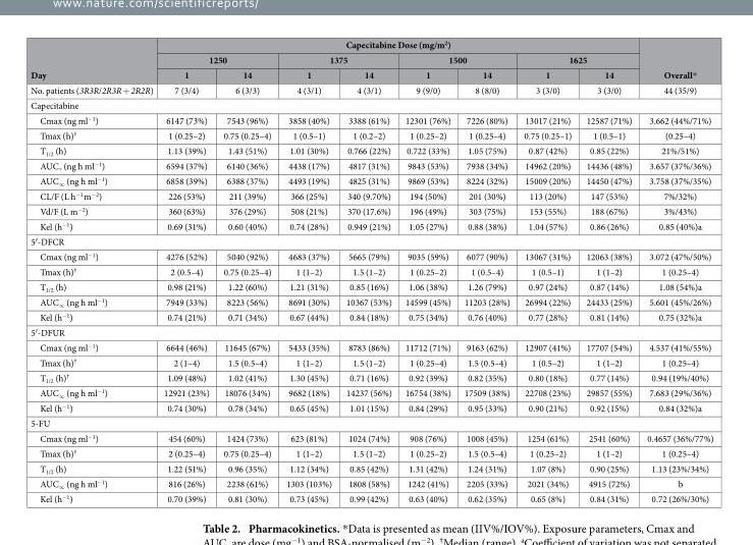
<table><thead><tr><td rowspan="3">Day</td><td colspan="8">Capecitabine Dose (mg/m<sup>2</sup>)</td><td rowspan="3">Overall*</td></tr><tr><td colspan="2">1250</td><td colspan="2">1375</td><td colspan="2">1500</td><td colspan="2">1625</td></tr><tr><td>1</td><td>14</td><td>1</td><td>14</td><td>1</td><td>14</td><td>1</td><td>14</td></tr></thead><tbody><tr><td>No. patients (3R3R/2R3R + 2R2R)</td><td>7 (3/4)</td><td>6 (3/3)</td><td>4 (3/1)</td><td>4 (3/1)</td><td>9 (9/0)</td><td>8 (8/0)</td><td>3 (3/0)</td><td>3 (3/0)</td><td>44 (35/9)</td></tr><tr><td colspan="10">Capecitabine</td></tr><tr><td>Cmax (ng ml<sup>−1</sup>)</td><td>6147 (73%)</td><td>7543 (96%)</td><td>3858 (40%)</td><td>3388 (61%)</td><td>12301 (76%)</td><td>7226 (80%)</td><td>13017 (21%)</td><td>12587 (71%)</td><td>3.662 (44%/71%)</td></tr><tr><td>Tmax (h)<sup>†</sup></td><td>1 (0.25–2)</td><td>0.75 (0.25–4)</td><td>1 (0.5–1)</td><td>1 (0.2–2)</td><td>1 (0.25–2)</td><td>1 (0.25–4)</td><td>0.75 (0.25–1)</td><td>1 (0.5–1)</td><td>(0.25–4)</td></tr><tr><td>T<sub>1/2</sub> (h)</td><td>1.13 (39%)</td><td>1.43 (51%)</td><td>1.01 (30%)</td><td>0.766 (22%)</td><td>0.722 (33%)</td><td>1.05 (75%)</td><td>0.87 (42%)</td><td>0.85 (22%)</td><td>21%/51%)</td></tr><tr><td>AUC<sub>τ</sub> (ng h ml<sup>−1</sup>)</td><td>6594 (37%)</td><td>6140 (36%)</td><td>4438 (17%)</td><td>4817 (31%)</td><td>9843 (53%)</td><td>7938 (34%)</td><td>14962 (20%)</td><td>14436 (48%)</td><td>3.657 (37%/36%)</td></tr><tr><td>AUC<sub>∞</sub> (ng h ml<sup>−1</sup>)</td><td>6858 (39%)</td><td>6388 (37%)</td><td>4493 (19%)</td><td>4825 (31%)</td><td>9869 (53%)</td><td>8224 (32%)</td><td>15009 (20%)</td><td>14450 (47%)</td><td>3.758 (37%/35%)</td></tr><tr><td>CL/F (L h<sup>−1</sup> m<sup>−2</sup>)</td><td>226 (53%)</td><td>211 (39%)</td><td>366 (25%)</td><td>340 (9.70%)</td><td>194 (50%)</td><td>201 (30%)</td><td>113 (20%)</td><td>147 (53%)</td><td>7%/32%)</td></tr><tr><td>Vd/F (L m<sup>−2</sup>)</td><td>360 (63%)</td><td>376 (29%)</td><td>508 (21%)</td><td>370 (17.6%)</td><td>196 (49%)</td><td>303 (75%)</td><td>153 (55%)</td><td>188 (67%)</td><td>3%/43%)</td></tr><tr><td>Kel (h<sup>−1</sup>)</td><td>0.69 (31%)</td><td>0.60 (40%)</td><td>0.74 (28%)</td><td>0.949 (21%)</td><td>1.05 (27%)</td><td>0.88 (38%)</td><td>1.04 (57%)</td><td>0.86 (26%)</td><td>0.85 (40%)a</td></tr><tr><td colspan="10">5′-DFCR</td></tr><tr><td>Cmax (ng ml<sup>−1</sup>)</td><td>4276 (52%)</td><td>5040 (92%)</td><td>4683 (37%)</td><td>5665 (79%)</td><td>9035 (59%)</td><td>6077 (90%)</td><td>13067 (31%)</td><td>12063 (38%)</td><td>3.072 (47%/50%)</td></tr><tr><td>Tmax (h)<sup>†</sup></td><td>2 (0.5–4)</td><td>0.75 (0.25–4)</td><td>1 (1–2)</td><td>1.5 (1–2)</td><td>1 (0.25–2)</td><td>1 (0.5–4)</td><td>1 (0.5–1)</td><td>1 (1–2)</td><td>1 (0.25–4)</td></tr><tr><td>T<sub>1/2</sub> (h)</td><td>0.98 (21%)</td><td>1.22 (60%)</td><td>1.21 (31%)</td><td>0.85 (16%)</td><td>1.06 (38%)</td><td>1.26 (79%)</td><td>0.97 (24%)</td><td>0.87 (14%)</td><td>1.08 (54%)a</td></tr><tr><td>AUC<sub>∞</sub> (ng h ml<sup>−1</sup>)</td><td>7949 (33%)</td><td>8223 (56%)</td><td>8691 (30%)</td><td>10367 (53%)</td><td>14599 (45%)</td><td>11203 (28%)</td><td>26994 (22%)</td><td>24433 (25%)</td><td>5.601 (45%/26%)</td></tr><tr><td>Kel (h<sup>−1</sup>)</td><td>0.74 (21%)</td><td>0.71 (34%)</td><td>0.67 (44%)</td><td>0.84 (18%)</td><td>0.75 (34%)</td><td>0.76 (40%)</td><td>0.77 (28%)</td><td>0.81 (14%)</td><td>0.75 (32%)a</td></tr><tr><td colspan="10">5′-DFUR</td></tr><tr><td>Cmax (ng ml<sup>−1</sup>)</td><td>6644 (46%)</td><td>11645 (67%)</td><td>5433 (35%)</td><td>8783 (86%)</td><td>11712 (71%)</td><td>9163 (62%)</td><td>12907 (41%)</td><td>17707 (54%)</td><td>4.537 (41%/55%)</td></tr><tr><td>Tmax (h)<sup>†</sup></td><td>2 (1–4)</td><td>1.5 (0.5–4)</td><td>1 (1–2)</td><td>1.5 (1–2)</td><td>1 (0.25–4)</td><td>1.5 (0.5–4)</td><td>1 (0.5–2)</td><td>1 (1–2)</td><td>1 (0.25–4)</td></tr><tr><td>T<sub>1/2</sub> (h)<sup>†</sup></td><td>1.09 (48%)</td><td>1.02 (41%)</td><td>1.30 (45%)</td><td>0.71 (16%)</td><td>0.92 (39%)</td><td>0.82 (35%)</td><td>0.80 (18%)</td><td>0.77 (14%)</td><td>0.94 (19%/40%)</td></tr><tr><td>AUC<sub>∞</sub> (ng h ml<sup>−1</sup>)</td><td>12921 (23%)</td><td>18076 (34%)</td><td>9682 (18%)</td><td>14237 (56%)</td><td>16754 (38%)</td><td>17509 (38%)</td><td>22708 (23%)</td><td>29857 (55%)</td><td>7.683 (29%/36%)</td></tr><tr><td>Kel (h<sup>−1</sup>)</td><td>0.74 (30%)</td><td>0.78 (34%)</td><td>0.65 (45%)</td><td>1.01 (15%)</td><td>0.84 (29%)</td><td>0.95 (33%)</td><td>0.90 (21%)</td><td>0.92 (15%)</td><td>0.84 (32%)a</td></tr><tr><td colspan="10">5-FU</td></tr><tr><td>Cmax (ng ml<sup>−1</sup>)</td><td>454 (60%)</td><td>1424 (73%)</td><td>623 (81%)</td><td>1024 (74%)</td><td>908 (76%)</td><td>1008 (45%)</td><td>1254 (61%)</td><td>2541 (60%)</td><td>0.4657 (36%/77%)</td></tr><tr><td>Tmax (h)<sup>†</sup></td><td>2 (0.25–4)</td><td>0.75 (0.25–4)</td><td>1 (1–2)</td><td>1.5 (1–2)</td><td>1 (0.25–2)</td><td>1.5 (0.5–4)</td><td>1 (0.25–2)</td><td>1 (1–2)</td><td>1 (0.25–4)</td></tr><tr><td>T<sub>1/2</sub> (h)</td><td>1.22 (51%)</td><td>0.96 (35%)</td><td>1.12 (34%)</td><td>0.85 (42%)</td><td>1.31 (42%)</td><td>1.24 (31%)</td><td>1.07 (8%)</td><td>0.90 (25%)</td><td>1.13 (23%/34%)</td></tr><tr><td>AUC<sub>∞</sub> (ng h ml<sup>−1</sup>)</td><td>816 (26%)</td><td>2238 (61%)</td><td>1303 (103%)</td><td>1808 (58%)</td><td>1242 (41%)</td><td>2205 (33%)</td><td>2021 (34%)</td><td>4915 (72%)</td><td>b</td></tr><tr><td>Kel (h<sup>−1</sup>)</td><td>0.70 (39%)</td><td>0.81 (30%)</td><td>0.73 (45%)</td><td>0.99 (42%)</td><td>0.63 (40%)</td><td>0.62 (35%)</td><td>0.65 (8%)</td><td>0.84 (31%)</td><td>0.72 (26%/30%)</td></tr></tbody></table>